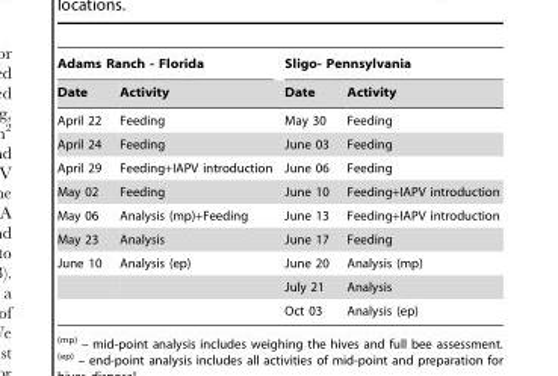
<table><thead><tr><td colspan="2">Adams Ranch - Florida</td><td colspan="2">Sligo- Pennsylvania</td></tr><tr><td>Date</td><td>Activity</td><td>Date</td><td>Activity</td></tr></thead><tbody><tr><td>April 22</td><td>Feeding</td><td>May 30</td><td>Feeding</td></tr><tr><td>April 24</td><td>Feeding</td><td>June 03</td><td>Feeding</td></tr><tr><td>April 29</td><td>Feeding+IAPV introduction</td><td>June 06</td><td>Feeding</td></tr><tr><td>May 02</td><td>Feeding</td><td>June 10</td><td>Feeding+IAPV introduction</td></tr><tr><td>May 06</td><td>Analysis (mp)+Feeding</td><td>June 13</td><td>Feeding+IAPV introduction</td></tr><tr><td>May 23</td><td>Analysis</td><td>June 17</td><td>Feeding</td></tr><tr><td rowspan="3">June 10</td><td>Analysis (ep)</td><td>June 20</td><td>Analysis (mp)</td></tr><tr><td></td><td>July 21</td><td>Analysis</td></tr><tr><td></td><td>Oct 03</td><td>Analysis (ep)</td></tr></tbody></table>